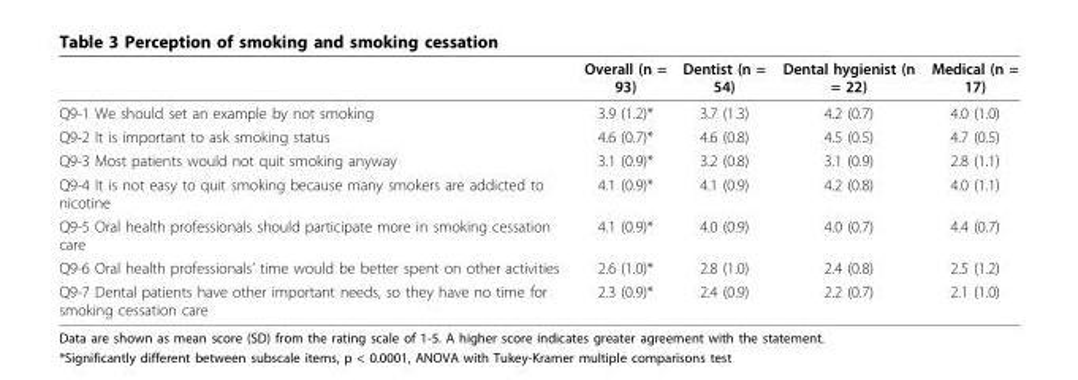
<table><thead><tr><td></td><td>Overall (n = 93)</td><td>Dentist (n = 54)</td><td>Dental hygienist (n = 22)</td><td>Medical (n = 17)</td></tr></thead><tbody><tr><td>Q9-1 We should set an example by not smoking</td><td>3.9 (1.2)*</td><td>3.7 (1.3)</td><td>4.2 (0.7)</td><td>4.0 (1.0)</td></tr><tr><td>Q9-2 It is important to ask smoking status</td><td>4.6 (0.7)*</td><td>4.6 (0.8)</td><td>4.5 (0.5)</td><td>4.7 (0.5)</td></tr><tr><td>Q9-3 Most patients would not quit smoking anyway</td><td>3.1 (0.9)*</td><td>3.2 (0.8)</td><td>3.1 (0.9)</td><td>2.8 (1.1)</td></tr><tr><td>Q9-4 It is not easy to quit smoking because many smokers are addicted to nicotine</td><td>4.1 (0.9)*</td><td>4.1 (0.9)</td><td>4.2 (0.8)</td><td>4.0 (1.1)</td></tr><tr><td>Q9-5 Oral health professionals should participate more in smoking cessation care</td><td>4.1 (0.9)*</td><td>4.0 (0.9)</td><td>4.0 (0.7)</td><td>4.4 (0.7)</td></tr><tr><td>Q9-6 Oral health professionals’ time would be better spent on other activities</td><td>2.6 (1.0)*</td><td>2.8 (1.0)</td><td>2.4 (0.8)</td><td>2.5 (1.2)</td></tr><tr><td>Q9-7 Dental patients have other important needs, so they have no time for smoking cessation care</td><td>2.3 (0.9)*</td><td>2.4 (0.9)</td><td>2.2 (0.7)</td><td>2.1 (1.0)</td></tr></tbody></table>